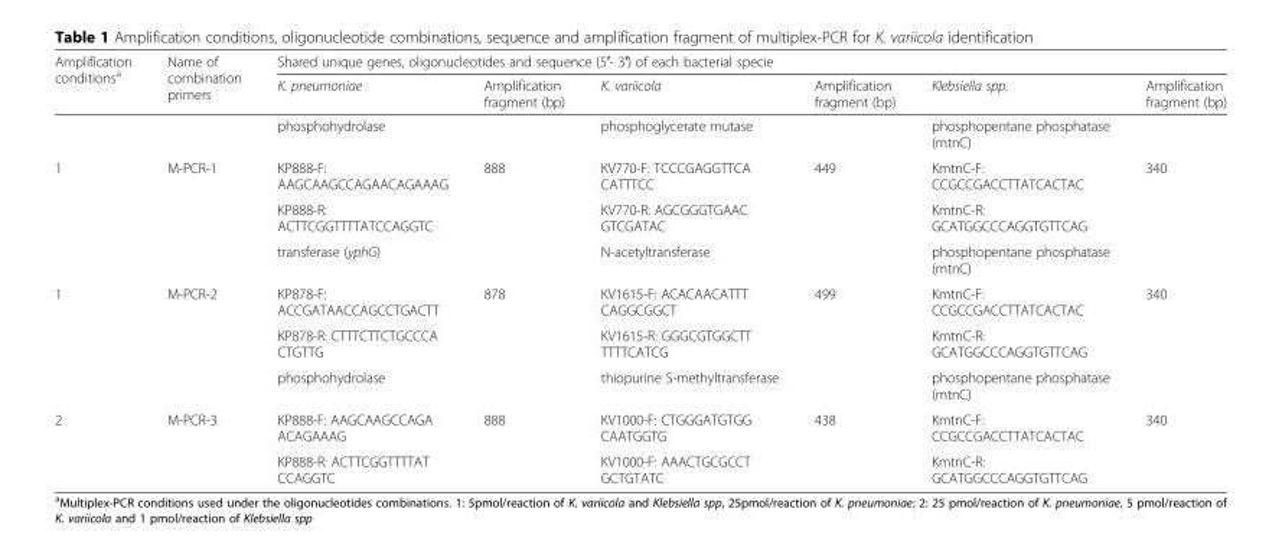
<table><thead><tr><td rowspan="2">Amplification conditions<sup>a</sup></td><td rowspan="2">Name of combination primers</td><td colspan="6">Shared unique genes, oligonucleotides and sequence (5′- 3′) of each bacterial specie</td></tr><tr><td>K. pneumoniae</td><td>Amplification fragment (bp)</td><td>K. variicola</td><td>Amplification fragment (bp)</td><td>Klebsiella spp.</td><td>Amplification fragment (bp)</td></tr></thead><tbody><tr><td></td><td></td><td>phosphohydrolase</td><td></td><td>phosphoglycerate mutase</td><td></td><td>phosphopentane phosphatase (mtnC)</td><td></td></tr><tr><td rowspan="3">1</td><td rowspan="2">M-PCR-1</td><td>KP888-F: AAGCAAGCCAGAACAGAAAG</td><td rowspan="2">888</td><td>KV770-F: TCCCGAGGTTCA CATTTCC</td><td rowspan="2">449</td><td>KmtnC-F: CCGCCGACCTTATCACTAC</td><td rowspan="2">340</td></tr><tr><td>KP888-R: ACTTCGGTTTTATCCAGGTC</td><td>KV770-R: AGCGGGTGAAC GTCGATAC</td><td>KmtnC-R: GCATGGCCCAGGTGTTCAG</td></tr><tr><td></td><td>transferase (yphG)</td><td></td><td>N-acetyltransferase</td><td></td><td>phosphopentane phosphatase (mtnC)</td><td></td></tr><tr><td rowspan="3">1</td><td rowspan="2">M-PCR-2</td><td>KP878-F: ACCGATAACCAGCCTGACTT</td><td rowspan="2">878</td><td>KV1615-F: ACACAACATTT CAGGCGGCT</td><td rowspan="2">499</td><td>KmtnC-F: CCGCCGACCTTATCACTAC</td><td rowspan="2">340</td></tr><tr><td>KP878-R: CTTTCTTCTGCCCA CTGTTG</td><td>KV1615-R: GGGCGTGGCTT TTTTCATCG</td><td>KmtnC-R: GCATGGCCCAGGTGTTCAG</td></tr><tr><td></td><td>phosphohydrolase</td><td></td><td>thiopurine S-methyltransferase</td><td></td><td>phosphopentane phosphatase (mtnC)</td><td></td></tr><tr><td rowspan="2">2</td><td rowspan="2">M-PCR-3</td><td>KP888-F: AAGCAAGCCAGA ACAGAAAG</td><td rowspan="2">888</td><td>KV1000-F: CTGGGATGTGG CAATGGTG</td><td rowspan="2">438</td><td>KmtnC-F: CCGCCGACCTTATCACTAC</td><td rowspan="2">340</td></tr><tr><td>KP888-R: ACTTCGGTTTTAT CCAGGTC</td><td>KV1000-F: AAACTGCGCCT GCTGTATC</td><td>KmtnC-R: GCATGGCCCAGGTGTTCAG</td></tr></tbody></table>